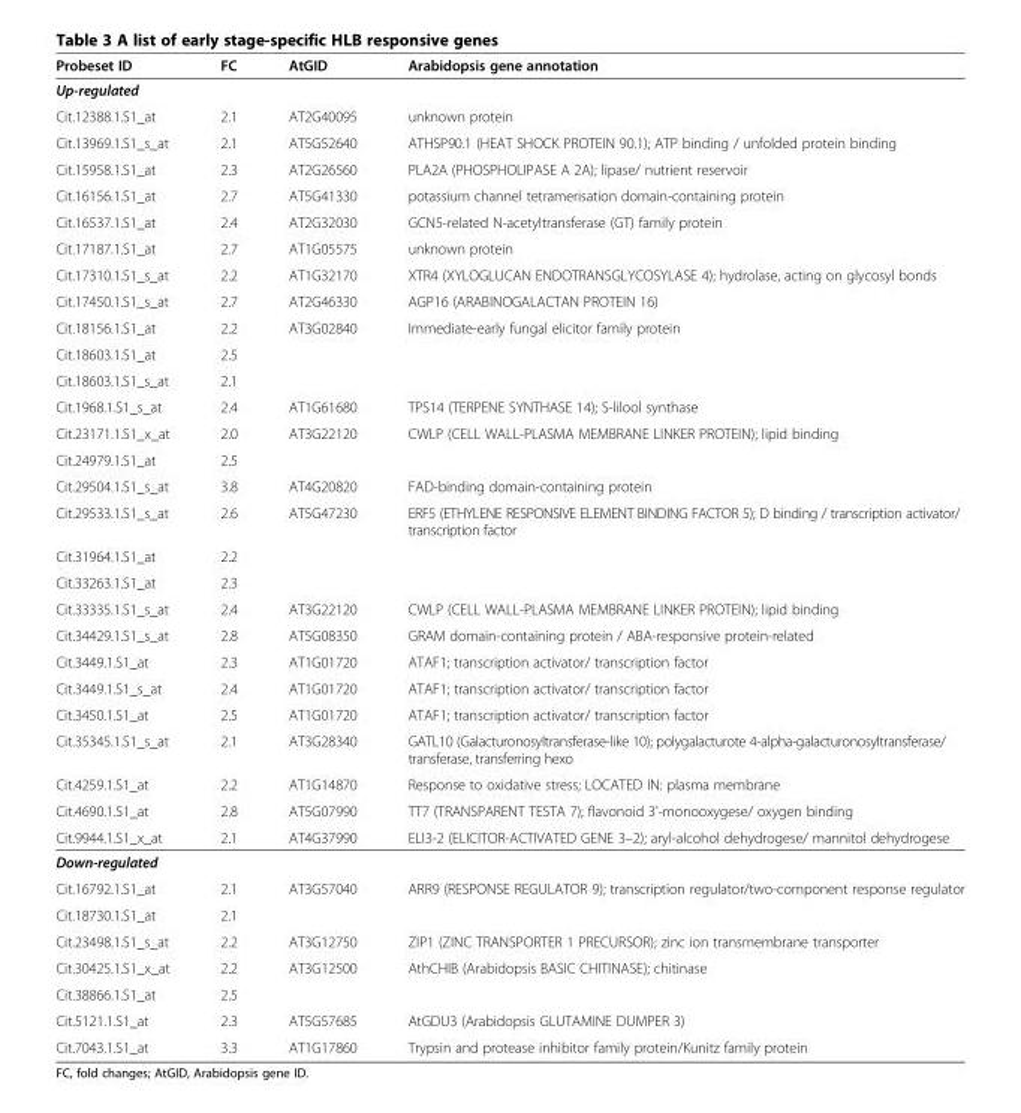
<table><thead><tr><td>Probeset ID</td><td>FC</td><td>AtGID</td><td>Arabidopsis gene annotation</td></tr></thead><tbody><tr><td colspan="4">Up-regulated</td></tr><tr><td>Cit.12388.1.S1_at</td><td>2.1</td><td>AT2G40095</td><td>unknown protein</td></tr><tr><td>Cit.13969.1.S1_s_at</td><td>2.1</td><td>AT5G52640</td><td>ATHSP90.1 (HEAT SHOCK PROTEIN 90.1); ATP binding / unfolded protein binding</td></tr><tr><td>Cit.15958.1.S1_at</td><td>2.3</td><td>AT2G26560</td><td>PLA2A (PHOSPHOLIPASE A 2A); lipase/ nutrient reservoir</td></tr><tr><td>Cit.16156.1.S1_at</td><td>2.7</td><td>AT5G41330</td><td>potassium channel tetramerisation domain-containing protein</td></tr><tr><td>Cit.16537.1.S1_at</td><td>2.4</td><td>AT2G32030</td><td>GCN5-related N-acetyltransferase (GT) family protein</td></tr><tr><td>Cit.17187.1.S1_at</td><td>2.7</td><td>AT1G05575</td><td>unknown protein</td></tr><tr><td>Cit.17310.1.S1_s_at</td><td>2.2</td><td>AT1G32170</td><td>XTR4 (XYLOGLUCAN ENDOTRANSGLYCOSYLASE 4); hydrolase, acting on glycosyl bonds</td></tr><tr><td>Cit.17450.1.S1_s_at</td><td>2.7</td><td>AT2G46330</td><td>AGP16 (ARABINOGALACTAN PROTEIN 16)</td></tr><tr><td>Cit.18156.1.S1_at</td><td>2.2</td><td>AT3G02840</td><td>Immediate-early fungal elicitor family protein</td></tr><tr><td>Cit.18603.1.S1_at</td><td>2.5</td><td></td><td></td></tr><tr><td>Cit.18603.1.S1_s_at</td><td>2.1</td><td></td><td></td></tr><tr><td>Cit.1968.1.S1_s_at</td><td>2.4</td><td>AT1G61680</td><td>TPS14 (TERPENE SYNTHASE 14); S-lilool synthase</td></tr><tr><td>Cit.23171.1.S1_x_at</td><td>2.0</td><td>AT3G22120</td><td>CWLP (CELL WALL-PLASMA MEMBRANE LINKER PROTEIN); lipid binding</td></tr><tr><td>Cit.24979.1.S1_at</td><td>2.5</td><td></td><td></td></tr><tr><td>Cit.29504.1.S1_s_at</td><td>3.8</td><td>AT4G20820</td><td>FAD-binding domain-containing protein</td></tr><tr><td>Cit.29533.1.S1_s_at</td><td>2.6</td><td>AT5G47230</td><td>ERF5 (ETHYLENE RESPONSIVE ELEMENT BINDING FACTOR 5); D binding / transcription activator/ transcription factor</td></tr><tr><td>Cit.31964.1.S1_at</td><td>2.2</td><td></td><td></td></tr><tr><td>Cit.33263.1.S1_at</td><td>2.3</td><td></td><td></td></tr><tr><td>Cit.33335.1.S1_s_at</td><td>2.4</td><td>AT3G22120</td><td>CWLP (CELL WALL-PLASMA MEMBRANE LINKER PROTEIN); lipid binding</td></tr><tr><td>Cit.34429.1.S1_s_at</td><td>2.8</td><td>AT5G08350</td><td>GRAM domain-containing protein / ABA-responsive protein-related</td></tr><tr><td>Cit.3449.1.S1_at</td><td>2.3</td><td>AT1G01720</td><td>ATAF1; transcription activator/ transcription factor</td></tr><tr><td>Cit.3449.1.S1_s_at</td><td>2.4</td><td>AT1G01720</td><td>ATAF1; transcription activator/ transcription factor</td></tr><tr><td>Cit.3450.1.S1_at</td><td>2.5</td><td>AT1G01720</td><td>ATAF1; transcription activator/ transcription factor</td></tr><tr><td>Cit.35345.1.S1_s_at</td><td>2.1</td><td>AT3G28340</td><td>GATL10 (Galacturonosyltransferase-like 10); polygalacturote 4-alpha-galacturonosyltransferase/ transferase, transferring hexo</td></tr><tr><td>Cit.4259.1.S1_at</td><td>2.2</td><td>AT1G14870</td><td>Response to oxidative stress; LOCATED IN: plasma membrane</td></tr><tr><td>Cit.4690.1.S1_at</td><td>2.8</td><td>AT5G07990</td><td>TT7 (TRANSPARENT TESTA 7); flavonoid 3&#x27;-monooxygese/ oxygen binding</td></tr><tr><td>Cit.9944.1.S1_x_at</td><td>2.1</td><td>AT4G37990</td><td>ELI3-2 (ELICITOR-ACTIVATED GENE 3–2); aryl-alcohol dehydrogese/ mannitol dehydrogese</td></tr><tr><td colspan="4">Down-regulated</td></tr><tr><td>Cit.16792.1.S1_at</td><td>2.1</td><td>AT3G57040</td><td>ARR9 (RESPONSE REGULATOR 9); transcription regulator/two-component response regulator</td></tr><tr><td>Cit.18730.1.S1_at</td><td>2.1</td><td></td><td></td></tr><tr><td>Cit.23498.1.S1_s_at</td><td>2.2</td><td>AT3G12750</td><td>ZIP1 (ZINC TRANSPORTER 1 PRECURSOR); zinc ion transmembrane transporter</td></tr><tr><td>Cit.30425.1.S1_x_at</td><td>2.2</td><td>AT3G12500</td><td>AthCHIB (Arabidopsis BASIC CHITINASE); chitinase</td></tr><tr><td>Cit.38866.1.S1_at</td><td>2.5</td><td></td><td></td></tr><tr><td>Cit.5121.1.S1_at</td><td>2.3</td><td>AT5G57685</td><td>AtGDU3 (Arabidopsis GLUTAMINE DUMPER 3)</td></tr><tr><td>Cit.7043.1.S1_at</td><td>3.3</td><td>AT1G17860</td><td>Trypsin and protease inhibitor family protein/Kunitz family protein</td></tr></tbody></table>